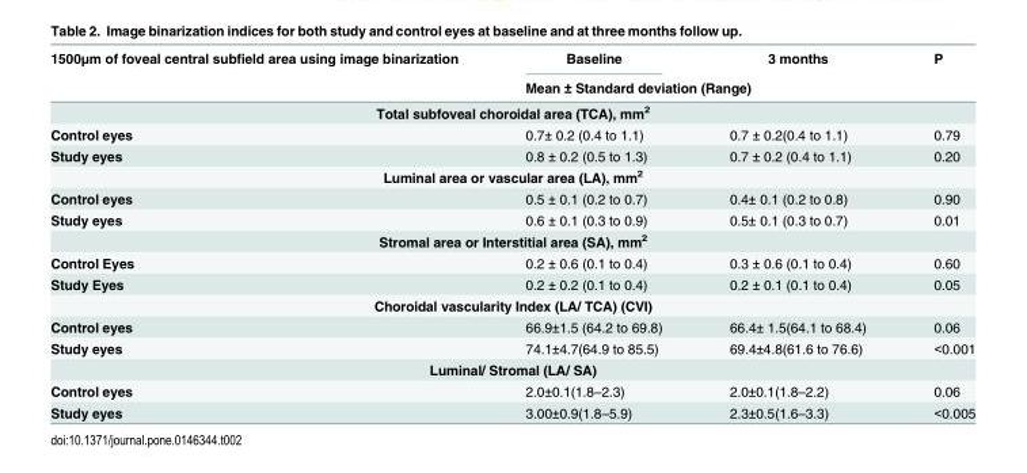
<table><thead><tr><td rowspan="2">1500μm of foveal central subfield area using image binarization</td><td>Baseline</td><td>3 months</td><td rowspan="2">P</td></tr><tr><td colspan="2">Mean ± Standard deviation (Range)</td></tr></thead><tbody><tr><td colspan="4">Total subfoveal choroidal area (TCA), mm<sup>2</sup></td></tr><tr><td>Control eyes</td><td>0.7± 0.2 (0.4 to 1.1)</td><td>0.7 ± 0.2(0.4 to 1.1)</td><td>0.79</td></tr><tr><td>Study eyes</td><td>0.8 ± 0.2 (0.5 to 1.3)</td><td>0.7 ± 0.2 (0.4 to 1.1)</td><td>0.20</td></tr><tr><td colspan="4">Luminal area or vascular area (LA), mm<sup>2</sup></td></tr><tr><td>Control eyes</td><td>0.5 ± 0.1 (0.2 to 0.7)</td><td>0.4± 0.1 (0.2 to 0.8)</td><td>0.90</td></tr><tr><td>Study eyes</td><td>0.6 ± 0.1 (0.3 to 0.9)</td><td>0.5± 0.1 (0.3 to 0.7)</td><td>0.01</td></tr><tr><td colspan="4">Stromal area or Interstitial area (SA), mm<sup>2</sup></td></tr><tr><td>Control Eyes</td><td>0.2 ± 0.6 (0.1 to 0.4)</td><td>0.3 ± 0.6 (0.1 to 0.4)</td><td>0.60</td></tr><tr><td>Study Eyes</td><td>0.2 ± 0.2 (0.1 to 0.4)</td><td>0.2 ± 0.1 (0.1 to 0.4)</td><td>0.05</td></tr><tr><td colspan="4">Choroidal vascularity Index (LA/ TCA) (CVI)</td></tr><tr><td>Control eyes</td><td>66.9±1.5 (64.2 to 69.8)</td><td>66.4± 1.5(64.1 to 68.4)</td><td>0.06</td></tr><tr><td>Study eyes</td><td>74.1±4.7(64.9 to 85.5)</td><td>69.4±4.8(61.6 to 76.6)</td><td>&lt;0.001</td></tr><tr><td colspan="4">Luminal/ Stromal (LA/ SA)</td></tr><tr><td>Control eyes</td><td>2.0±0.1(1.8–2.3)</td><td>2.0±0.1(1.8–2.2)</td><td>0.06</td></tr><tr><td>Study eyes</td><td>3.00±0.9(1.8–5.9)</td><td>2.3±0.5(1.6–3.3)</td><td>&lt;0.005</td></tr></tbody></table>